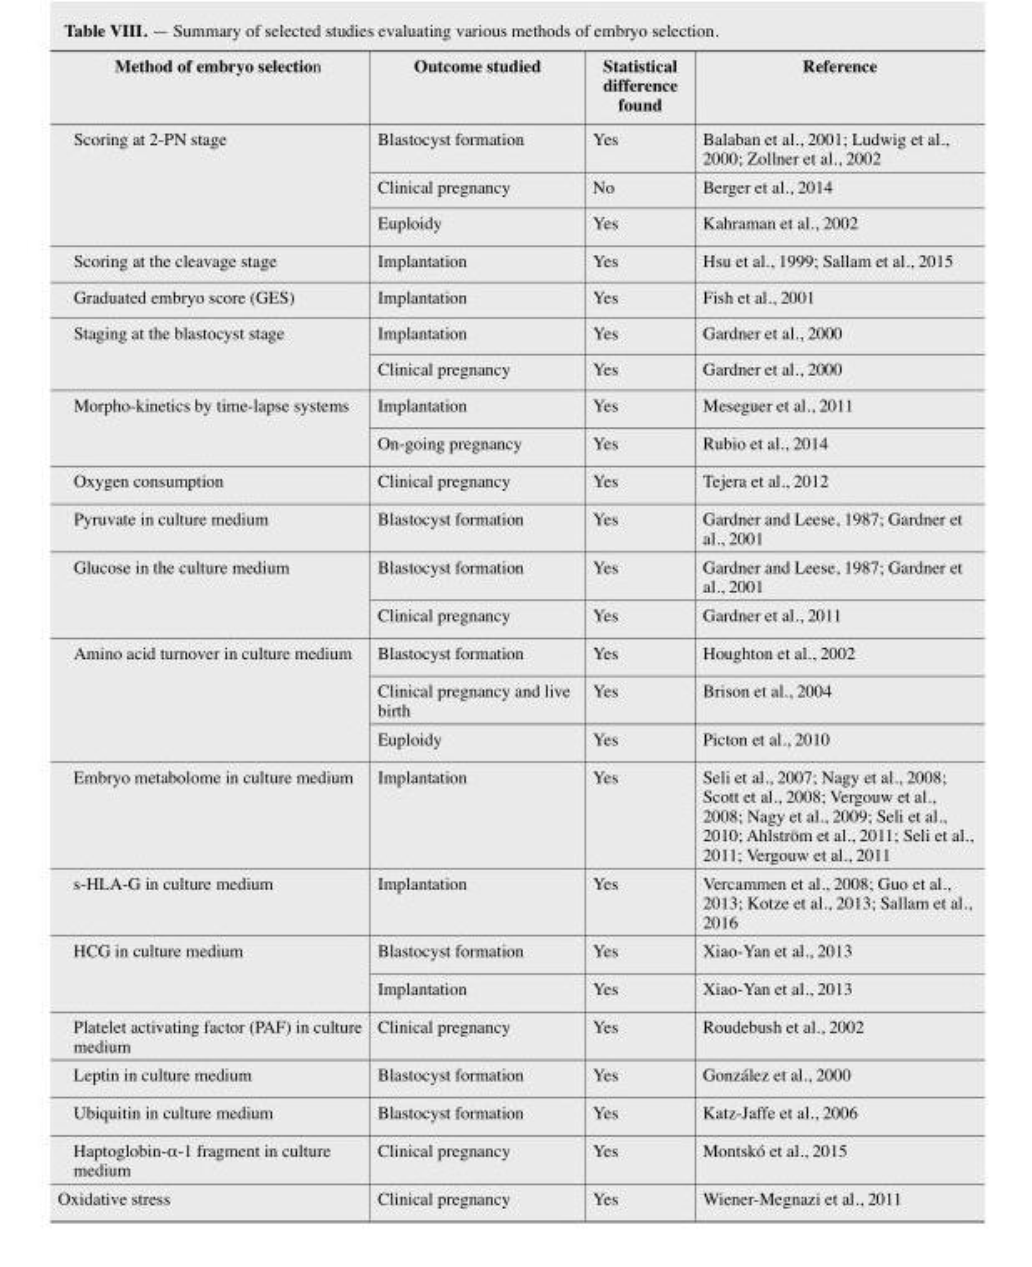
<table><thead><tr><td>Method of embryo selection</td><td>Outcome studied</td><td>Statistical difference found</td><td>Reference</td></tr></thead><tbody><tr><td rowspan="3">Scoring at 2-PN stage</td><td>Blastocyst formation</td><td>Yes</td><td>Balaban et al., 2001; Ludwig et al., 2000; Zollner et al., 2002</td></tr><tr><td>Clinical pregnancy</td><td>No</td><td>Berger et al., 2014</td></tr><tr><td>Euploidy</td><td>Yes</td><td>Kahraman et al., 2002</td></tr><tr><td>Scoring at the cleavage stage</td><td>Implantation</td><td>Yes</td><td>Hsu et al., 1999; Sallam et al., 2015</td></tr><tr><td>Graduated embryo score (GES)</td><td>Implantation</td><td>Yes</td><td>Fish et al., 2001</td></tr><tr><td rowspan="2">Staging at the blastocyst stage</td><td>Implantation</td><td>Yes</td><td>Gardner et al., 2000</td></tr><tr><td>Clinical pregnancy</td><td>Yes</td><td>Gardner et al., 2000</td></tr><tr><td rowspan="2">Morpho-kinetics by time-lapse systems</td><td>Implantation</td><td>Yes</td><td>Meseguer et al., 2011</td></tr><tr><td>On-going pregnancy</td><td>Yes</td><td>Rubio et al., 2014</td></tr><tr><td>Oxygen consumption</td><td>Clinical pregnancy</td><td>Yes</td><td>Tejera et al., 2012</td></tr><tr><td>Pyruvate in culture medium</td><td>Blastocyst formation</td><td>Yes</td><td>Gardner and Leese, 1987; Gardner et al., 2001</td></tr><tr><td rowspan="2">Glucose in the culture medium</td><td>Blastocyst formation</td><td>Yes</td><td>Gardner and Leese, 1987; Gardner et al., 2001</td></tr><tr><td>Clinical pregnancy</td><td>Yes</td><td>Gardner et al., 2011</td></tr><tr><td rowspan="3">Amino acid turnover in culture medium</td><td>Blastocyst formation</td><td>Yes</td><td>Houghton et al., 2002</td></tr><tr><td>Clinical pregnancy and live birth</td><td>Yes</td><td>Brison et al., 2004</td></tr><tr><td>Euploidy</td><td>Yes</td><td>Picton et al., 2010</td></tr><tr><td>Embryo metabolome in culture medium</td><td>Implantation</td><td>Yes</td><td>Seli et al., 2007; Nagy et al., 2008; Scott et al., 2008; Vergouw et al., 2008; Nagy et al., 2009; Seli et al., 2010; Ahlström et al., 2011; Seli et al., 2011; Vergouw et al., 2011</td></tr><tr><td>s-HLA-G in culture medium</td><td>Implantation</td><td>Yes</td><td>Vercammen et al., 2008; Guo et al., 2013; Kotze et al., 2013; Sallam et al., 2016</td></tr><tr><td rowspan="2">HCG in culture medium</td><td>Blastocyst formation</td><td>Yes</td><td>Xiao-Yan et al., 2013</td></tr><tr><td>Implantation</td><td>Yes</td><td>Xiao-Yan et al., 2013</td></tr><tr><td>Platelet activating factor (PAF) in culture medium</td><td>Clinical pregnancy</td><td>Yes</td><td>Roudebush et al., 2002</td></tr><tr><td>Leptin in culture medium</td><td>Blastocyst formation</td><td>Yes</td><td>González et al., 2000</td></tr><tr><td>Ubiquitin in culture medium</td><td>Blastocyst formation</td><td>Yes</td><td>Katz-Jaffe et al., 2006</td></tr><tr><td>Haptoglobin-α-1 fragment in culture medium</td><td>Clinical pregnancy</td><td>Yes</td><td>Montskó et al., 2015</td></tr><tr><td>Oxidative stress</td><td>Clinical pregnancy</td><td>Yes</td><td>Wiener-Megnazi et al., 2011</td></tr></tbody></table>